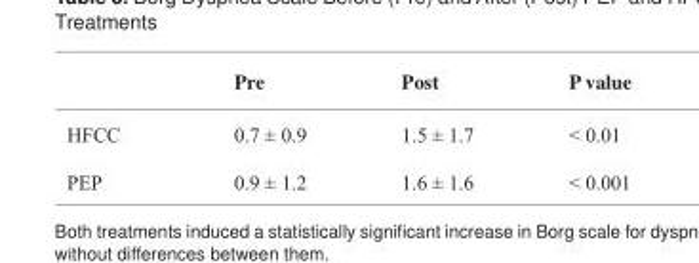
<table><thead><tr><td></td><td>Pre</td><td>Post</td><td>P value</td></tr></thead><tbody><tr><td>HFCC</td><td>0.7 ± 0.9</td><td>1.5 ± 1.7</td><td>&lt; 0.01</td></tr><tr><td>PEP</td><td>0.9 ± 1.2</td><td>1.6 ± 1.6</td><td>&lt; 0.001</td></tr></tbody></table>